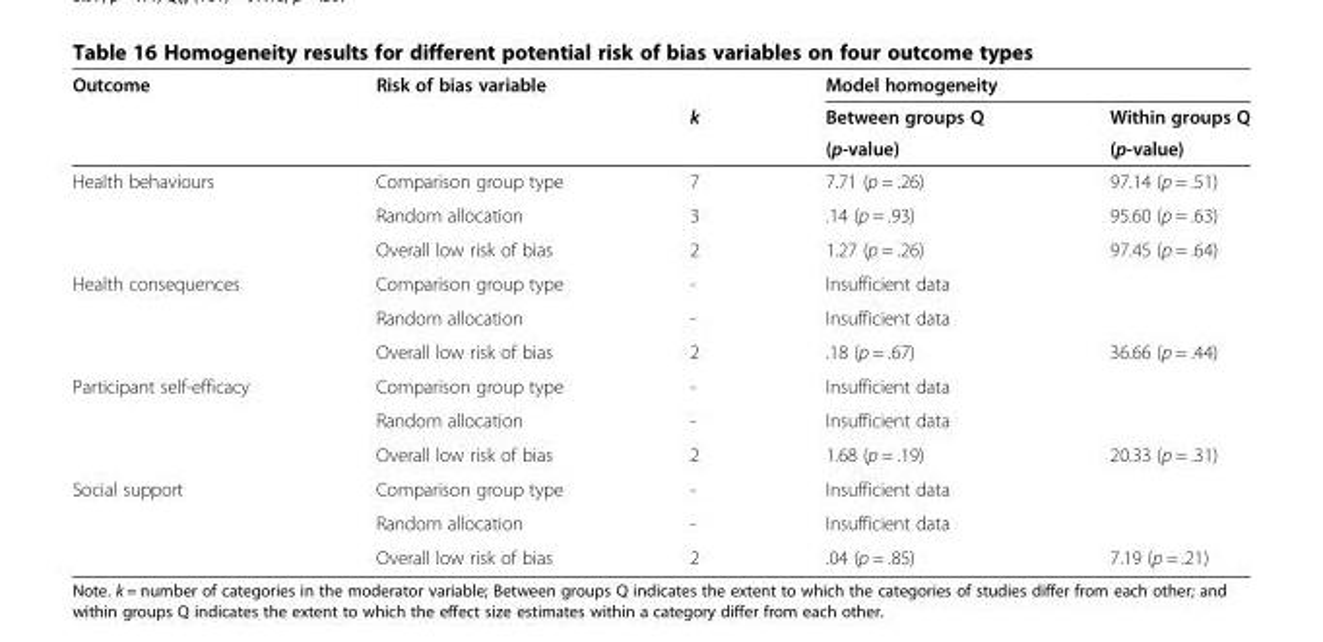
<table><thead><tr><td rowspan="3">Outcome</td><td rowspan="3">Risk of bias variable</td><td rowspan="3">k</td><td colspan="2">Model homogeneity</td></tr><tr><td rowspan="2">Between groups Q (p-value)</td><td rowspan="2">Within groups Q (p-value)</td></tr><tr></tr></thead><tbody><tr><td rowspan="3">Health behaviours</td><td>Comparison group type</td><td>7</td><td>7.71 (p = .26)</td><td>97.14 (p = .51)</td></tr><tr><td>Random allocation</td><td>3</td><td>.14 (p = .93)</td><td>95.60 (p = .63)</td></tr><tr><td>Overall low risk of bias</td><td>2</td><td>1.27 (p = .26)</td><td>97.45 (p = .64)</td></tr><tr><td rowspan="3">Health consequences</td><td>Comparison group type</td><td>-</td><td colspan="2">Insufficient data</td></tr><tr><td>Random allocation</td><td>-</td><td colspan="2">Insufficient data</td></tr><tr><td>Overall low risk of bias</td><td>2</td><td>.18 (p = .67)</td><td>36.66 (p = .44)</td></tr><tr><td rowspan="3">Participant self-efficacy</td><td>Comparison group type</td><td>-</td><td colspan="2">Insufficient data</td></tr><tr><td>Random allocation</td><td>-</td><td colspan="2">Insufficient data</td></tr><tr><td>Overall low risk of bias</td><td>2</td><td>1.68 (p = .19)</td><td>20.33 (p = .31)</td></tr><tr><td rowspan="3">Social support</td><td>Comparison group type</td><td>-</td><td colspan="2">Insufficient data</td></tr><tr><td>Random allocation</td><td>-</td><td colspan="2">Insufficient data</td></tr><tr><td>Overall low risk of bias</td><td>2</td><td>.04 (p = .85)</td><td>7.19 (p = .21)</td></tr></tbody></table>